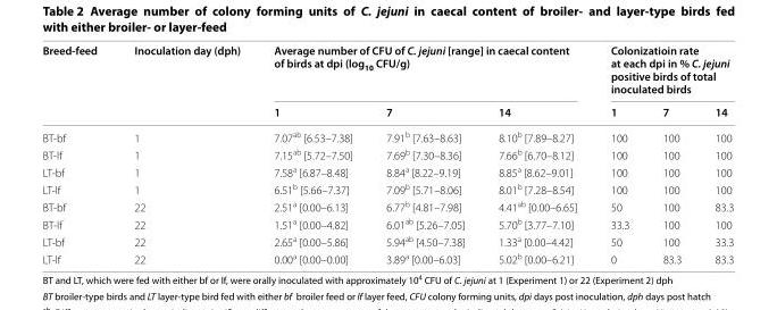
<table><thead><tr><td rowspan="2">Breed‑feed</td><td rowspan="2">Inoculation day (dph)</td><td colspan="3">Average number of CFU of C. jejuni [range] in caecal content of birds at dpi (log<sub>10</sub> CFU/g)</td><td colspan="3">Colonizatioin rate at each dpi in % C. jejuni positive birds of total inoculated birds</td></tr><tr><td>1</td><td>7</td><td>14</td><td>1</td><td>7</td><td>14</td></tr></thead><tbody><tr><td>BT-bf</td><td>1</td><td>7.07<sup>ab</sup> [6.53–7.38]</td><td>7.91<sup>b</sup> [7.63–8.63]</td><td>8.10<sup>b</sup> [7.89–8.27]</td><td>100</td><td>100</td><td>100</td></tr><tr><td>BT-lf</td><td>1</td><td>7.15<sup>ab</sup> [5.72–7.50]</td><td>7.69<sup>b</sup> [7.30–8.36]</td><td>7.66<sup>b</sup> [6.70–8.12]</td><td>100</td><td>100</td><td>100</td></tr><tr><td>LT-bf</td><td>1</td><td>7.58<sup>a</sup> [6.87–8.48]</td><td>8.84<sup>a</sup> [8.22–9.19]</td><td>8.85<sup>a</sup> [8.62–9.01]</td><td>100</td><td>100</td><td>100</td></tr><tr><td>LT-lf</td><td>1</td><td>6.51<sup>b</sup> [5.66–7.37]</td><td>7.09<sup>b</sup> [5.71–8.06]</td><td>8.01<sup>b</sup> [7.28–8.54]</td><td>100</td><td>100</td><td>100</td></tr><tr><td>BT-bf</td><td>22</td><td>2.51<sup>a</sup> [0.00–6.13]</td><td>6.77<sup>b</sup> [4.81–7.98]</td><td>4.41<sup>ab</sup> [0.00–6.65]</td><td>50</td><td>100</td><td>83.3</td></tr><tr><td>BT-lf</td><td>22</td><td>1.51<sup>a</sup> [0.00–4.82]</td><td>6.01<sup>ab</sup> [5.26–7.05]</td><td>5.70<sup>b</sup> [3.77–7.10]</td><td>33.3</td><td>100</td><td>100</td></tr><tr><td>LT-bf</td><td>22</td><td>2.65<sup>a</sup> [0.00–5.86]</td><td>5.94<sup>ab</sup> [4.50–7.38]</td><td>1.33<sup>a</sup> [0.00–4.42]</td><td>50</td><td>100</td><td>33.3</td></tr><tr><td>LT-lf</td><td>22</td><td>0.00<sup>a</sup> [0.00–0.00]</td><td>3.89<sup>a</sup> [0.00–6.03]</td><td>5.02<sup>b</sup> [0.00–6.21]</td><td>0</td><td>83.3</td><td>83.3</td></tr></tbody></table>